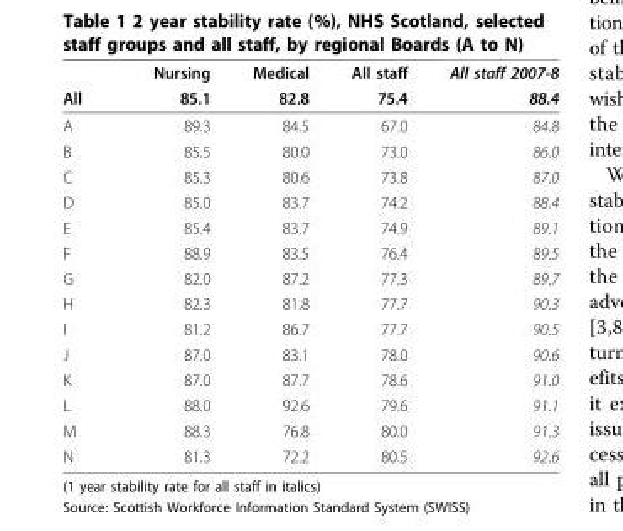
<table><thead><tr><td rowspan="2">All</td><td rowspan="2">Nursing 85.1</td><td rowspan="2">Medical 82.8</td><td rowspan="2">All staff 75.4</td><td rowspan="2">All staff 2007-8 88.4</td></tr><tr></tr></thead><tbody><tr><td>A</td><td>89.3</td><td>84.5</td><td>67.0</td><td>84.8</td></tr><tr><td>B</td><td>85.5</td><td>80.0</td><td>73.0</td><td>86.0</td></tr><tr><td>C</td><td>85.3</td><td>80.6</td><td>73.8</td><td>87.0</td></tr><tr><td>D</td><td>85.0</td><td>83.7</td><td>74.2</td><td>88.4</td></tr><tr><td>E</td><td>85.4</td><td>83.7</td><td>74.9</td><td>89.1</td></tr><tr><td>F</td><td>88.9</td><td>83.5</td><td>76.4</td><td>89.5</td></tr><tr><td>G</td><td>82.0</td><td>87.2</td><td>77.3</td><td>89.7</td></tr><tr><td>H</td><td>82.3</td><td>81.8</td><td>77.7</td><td>90.3</td></tr><tr><td>I</td><td>81.2</td><td>86.7</td><td>77.7</td><td>90.5</td></tr><tr><td>J</td><td>87.0</td><td>83.1</td><td>78.0</td><td>90.6</td></tr><tr><td>K</td><td>87.0</td><td>87.7</td><td>78.6</td><td>91.0</td></tr><tr><td>L</td><td>88.0</td><td>92.6</td><td>79.6</td><td>91.1</td></tr><tr><td>M</td><td>88.3</td><td>76.8</td><td>80.0</td><td>91.3</td></tr><tr><td>N</td><td>81.3</td><td>72.2</td><td>80.5</td><td>92.6</td></tr></tbody></table>